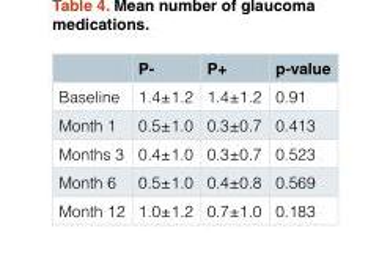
<table><thead><tr><td></td><td>P-</td><td>P+</td><td>p-value</td></tr></thead><tbody><tr><td>Baseline</td><td>1.4±1.2</td><td>1.4±1.2</td><td>0.91</td></tr><tr><td>Month 1</td><td>0.5±1.0</td><td>0.3±0.7</td><td>0.413</td></tr><tr><td>Months 3</td><td>0.4±1.0</td><td>0.3±0.7</td><td>0.523</td></tr><tr><td>Month 6</td><td>0.5±1.0</td><td>0.4±0.8</td><td>0.569</td></tr><tr><td>Month 12</td><td>1.0±1.2</td><td>0.7±1.0</td><td>0.183</td></tr></tbody></table>